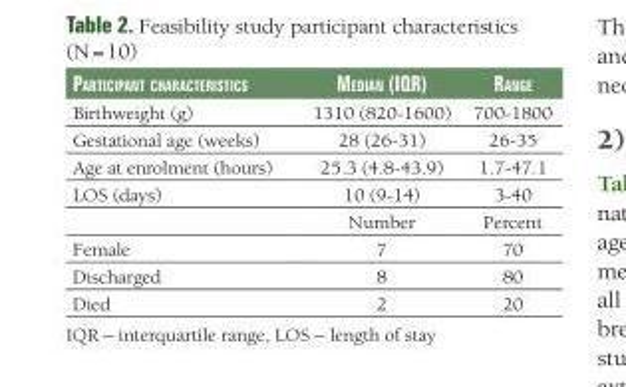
<table><thead><tr><td>participaNt characteristics</td><td>mediaN (iqr)</td><td>raNge</td></tr></thead><tbody><tr><td>Birthweight (g)</td><td>1310 (820-1600)</td><td>700-1800</td></tr><tr><td>Gestational age (weeks)</td><td>28 (26-31)</td><td>26-35</td></tr><tr><td>Age at enrolment (hours)</td><td>25.3 (4.8-43.9)</td><td>1.7-47.1</td></tr><tr><td rowspan="2">LOS (days)</td><td>10 (9-14)</td><td>3-40</td></tr><tr><td>Number</td><td>Percent</td></tr><tr><td>Female</td><td>7</td><td>70</td></tr><tr><td>Discharged</td><td>8</td><td>80</td></tr><tr><td>Died</td><td>2</td><td>20</td></tr></tbody></table>